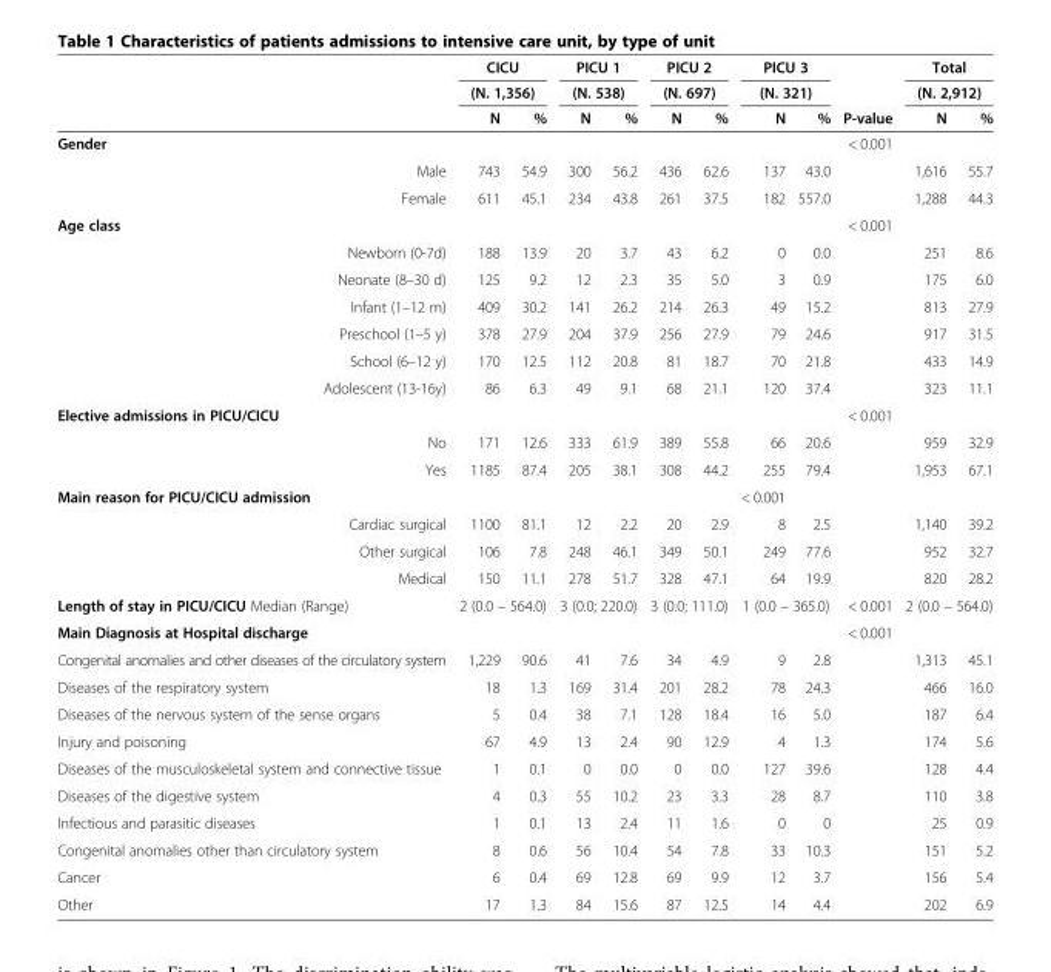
<table><thead><tr><td rowspan="3"></td><td rowspan="2" colspan="2">CICU (N. 1,356)</td><td rowspan="2" colspan="2">PICU 1 (N. 538)</td><td rowspan="2" colspan="2">PICU 2 (N. 697)</td><td rowspan="2" colspan="2">PICU 3 (N. 321)</td><td rowspan="3">P-value</td><td rowspan="2" colspan="2">Total (N. 2,912)</td></tr><tr></tr><tr><td>N</td><td>%</td><td>N</td><td>%</td><td>N</td><td>%</td><td>N</td><td>%</td><td>N</td><td>%</td></tr></thead><tbody><tr><td>Gender</td><td></td><td></td><td></td><td></td><td></td><td></td><td></td><td></td><td>&lt; 0.001</td><td></td><td></td></tr><tr><td>Male</td><td>743</td><td>54.9</td><td>300</td><td>56.2</td><td>436</td><td>62.6</td><td>137</td><td>43.0</td><td></td><td>1,616</td><td>55.7</td></tr><tr><td>Female</td><td>611</td><td>45.1</td><td>234</td><td>43.8</td><td>261</td><td>37.5</td><td>182</td><td>557.0</td><td></td><td>1,288</td><td>44.3</td></tr><tr><td>Age class</td><td></td><td></td><td></td><td></td><td></td><td></td><td></td><td></td><td>&lt; 0.001</td><td></td><td></td></tr><tr><td>Newborn (0-7d)</td><td>188</td><td>13.9</td><td>20</td><td>3.7</td><td>43</td><td>6.2</td><td>0</td><td>0.0</td><td></td><td>251</td><td>8.6</td></tr><tr><td>Neonate (8–30 d)</td><td>125</td><td>9.2</td><td>12</td><td>2.3</td><td>35</td><td>5.0</td><td>3</td><td>0.9</td><td></td><td>175</td><td>6.0</td></tr><tr><td>Infant (1–12 m)</td><td>409</td><td>30.2</td><td>141</td><td>26.2</td><td>214</td><td>26.3</td><td>49</td><td>15.2</td><td></td><td>813</td><td>27.9</td></tr><tr><td>Preschool (1–5 y)</td><td>378</td><td>27.9</td><td>204</td><td>37.9</td><td>256</td><td>27.9</td><td>79</td><td>24.6</td><td></td><td>917</td><td>31.5</td></tr><tr><td>School (6–12 y)</td><td>170</td><td>12.5</td><td>112</td><td>20.8</td><td>81</td><td>18.7</td><td>70</td><td>21.8</td><td></td><td>433</td><td>14.9</td></tr><tr><td>Adolescent (13-16y)</td><td>86</td><td>6.3</td><td>49</td><td>9.1</td><td>68</td><td>21.1</td><td>120</td><td>37.4</td><td></td><td>323</td><td>11.1</td></tr><tr><td>Elective admissions in PICU/CICU</td><td></td><td></td><td></td><td></td><td></td><td></td><td></td><td></td><td>&lt; 0.001</td><td></td><td></td></tr><tr><td>No</td><td>171</td><td>12.6</td><td>333</td><td>61.9</td><td>389</td><td>55.8</td><td>66</td><td>20.6</td><td></td><td>959</td><td>32.9</td></tr><tr><td>Yes</td><td>1185</td><td>87.4</td><td>205</td><td>38.1</td><td>308</td><td>44.2</td><td>255</td><td>79.4</td><td></td><td>1,953</td><td>67.1</td></tr><tr><td>Main reason for PICU/CICU admission</td><td></td><td></td><td></td><td></td><td></td><td></td><td>&lt; 0.001</td><td></td><td></td><td></td><td></td></tr><tr><td>Cardiac surgical</td><td>1100</td><td>81.1</td><td>12</td><td>2.2</td><td>20</td><td>2.9</td><td>8</td><td>2.5</td><td></td><td>1,140</td><td>39.2</td></tr><tr><td>Other surgical</td><td>106</td><td>7.8</td><td>248</td><td>46.1</td><td>349</td><td>50.1</td><td>249</td><td>77.6</td><td></td><td>952</td><td>32.7</td></tr><tr><td>Medical</td><td>150</td><td>11.1</td><td>278</td><td>51.7</td><td>328</td><td>47.1</td><td>64</td><td>19.9</td><td></td><td>820</td><td>28.2</td></tr><tr><td>Length of stay in PICU/CICU Median (Range)</td><td colspan="2">2 (0.0 – 564.0)</td><td colspan="2">3 (0.0; 220.0)</td><td colspan="2">3 (0.0; 111.0)</td><td colspan="2">1 (0.0 – 365.0)</td><td>&lt; 0.001</td><td colspan="2">2 (0.0 – 564.0)</td></tr><tr><td>Main Diagnosis at Hospital discharge</td><td></td><td></td><td></td><td></td><td></td><td></td><td></td><td></td><td>&lt; 0.001</td><td></td><td></td></tr><tr><td>Congenital anomalies and other diseases of the circulatory system</td><td>1,229</td><td>90.6</td><td>41</td><td>7.6</td><td>34</td><td>4.9</td><td>9</td><td>2.8</td><td></td><td>1,313</td><td>45.1</td></tr><tr><td>Diseases of the respiratory system</td><td>18</td><td>1.3</td><td>169</td><td>31.4</td><td>201</td><td>28.2</td><td>78</td><td>24.3</td><td></td><td>466</td><td>16.0</td></tr><tr><td>Diseases of the nervous system of the sense organs</td><td>5</td><td>0.4</td><td>38</td><td>7.1</td><td>128</td><td>18.4</td><td>16</td><td>5.0</td><td></td><td>187</td><td>6.4</td></tr><tr><td>Injury and poisoning</td><td>67</td><td>4.9</td><td>13</td><td>2.4</td><td>90</td><td>12.9</td><td>4</td><td>1.3</td><td></td><td>174</td><td>5.6</td></tr><tr><td>Diseases of the musculoskeletal system and connective tissue</td><td>1</td><td>0.1</td><td>0</td><td>0.0</td><td>0</td><td>0.0</td><td>127</td><td>39.6</td><td></td><td>128</td><td>4.4</td></tr><tr><td>Diseases of the digestive system</td><td>4</td><td>0.3</td><td>55</td><td>10.2</td><td>23</td><td>3.3</td><td>28</td><td>8.7</td><td></td><td>110</td><td>3.8</td></tr><tr><td>Infectious and parasitic diseases</td><td>1</td><td>0.1</td><td>13</td><td>2.4</td><td>11</td><td>1.6</td><td>0</td><td>0</td><td></td><td>25</td><td>0.9</td></tr><tr><td>Congenital anomalies other than circulatory system</td><td>8</td><td>0.6</td><td>56</td><td>10.4</td><td>54</td><td>7.8</td><td>33</td><td>10.3</td><td></td><td>151</td><td>5.2</td></tr><tr><td>Cancer</td><td>6</td><td>0.4</td><td>69</td><td>12.8</td><td>69</td><td>9.9</td><td>12</td><td>3.7</td><td></td><td>156</td><td>5.4</td></tr><tr><td>Other</td><td>17</td><td>1.3</td><td>84</td><td>15.6</td><td>87</td><td>12.5</td><td>14</td><td>4.4</td><td></td><td>202</td><td>6.9</td></tr></tbody></table>